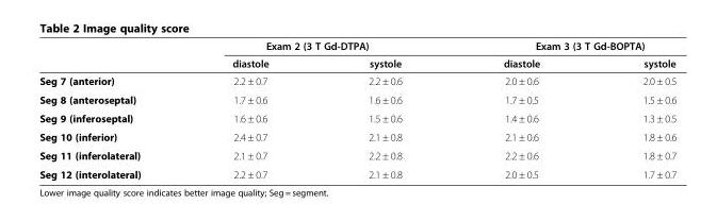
<table><thead><tr><td rowspan="2"></td><td colspan="2">Exam 2 (3 T Gd-DTPA)</td><td colspan="2">Exam 3 (3 T Gd-BOPTA)</td></tr><tr><td>diastole</td><td>systole</td><td>diastole</td><td>systole</td></tr></thead><tbody><tr><td>Seg 7 (anterior)</td><td>2.2 ± 0.7</td><td>2.2 ± 0.6</td><td>2.0 ± 0.6</td><td>2.0 ± 0.5</td></tr><tr><td>Seg 8 (anteroseptal)</td><td>1.7 ± 0.6</td><td>1.6 ± 0.6</td><td>1.7 ± 0.5</td><td>1.5 ± 0.6</td></tr><tr><td>Seg 9 (inferoseptal)</td><td>1.6 ± 0.6</td><td>1.5 ± 0.6</td><td>1.4 ± 0.6</td><td>1.3 ± 0.5</td></tr><tr><td>Seg 10 (inferior)</td><td>2.4 ± 0.7</td><td>2.1 ± 0.8</td><td>2.1 ± 0.6</td><td>1.8 ± 0.6</td></tr><tr><td>Seg 11 (inferolateral)</td><td>2.1 ± 0.7</td><td>2.2 ± 0.8</td><td>2.2 ± 0.6</td><td>1.8 ± 0.7</td></tr><tr><td>Seg 12 (interolateral)</td><td>2.2 ± 0.7</td><td>2.1 ± 0.8</td><td>2.0 ± 0.5</td><td>1.7 ± 0.7</td></tr></tbody></table>